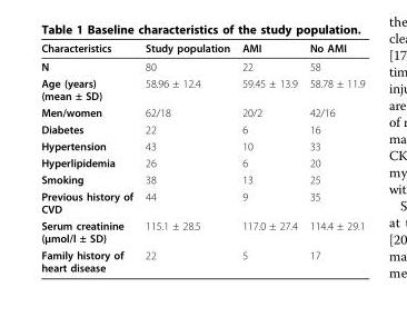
<table><thead><tr><td>Characteristics</td><td>Study population</td><td>AMI</td><td>No AMI</td></tr></thead><tbody><tr><td>N</td><td>80</td><td>22</td><td>58</td></tr><tr><td>Age (years) (mean ± SD)</td><td>58.96 ± 12.4</td><td>59.45 ± 13.9</td><td>58.78 ± 11.9</td></tr><tr><td>Men/women</td><td>62/18</td><td>20/2</td><td>42/16</td></tr><tr><td>Diabetes</td><td>22</td><td>6</td><td>16</td></tr><tr><td>Hypertension</td><td>43</td><td>10</td><td>33</td></tr><tr><td>Hyperlipidemia</td><td>26</td><td>6</td><td>20</td></tr><tr><td>Smoking</td><td>38</td><td>13</td><td>25</td></tr><tr><td>Previous history of CVD</td><td>44</td><td>9</td><td>35</td></tr><tr><td>Serum creatinine (μmol/l ± SD)</td><td>115.1 ± 28.5</td><td>117.0 ± 27.4</td><td>114.4 ± 29.1</td></tr><tr><td>Family history of heart disease</td><td>22</td><td>5</td><td>17</td></tr></tbody></table>